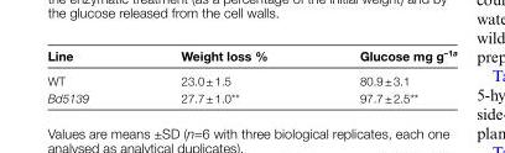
<table><thead><tr><td>Line</td><td>Weight loss %</td><td>Glucose mg g<sup>–1a</sup></td></tr></thead><tbody><tr><td>WT</td><td>23.0 ± 1.5</td><td>80.9 ± 3.1</td></tr><tr><td>Bd5139</td><td>27.7 ± 1.0**</td><td>97.7 ± 2.5**</td></tr></tbody></table>